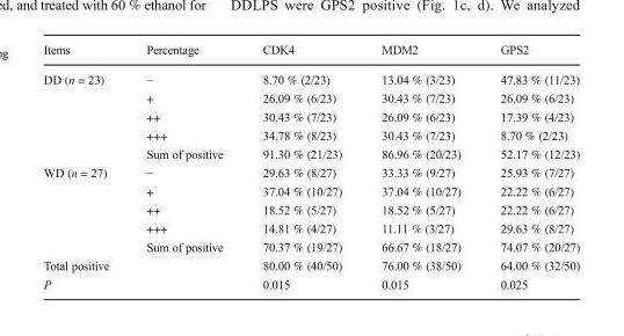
<table><thead><tr><td>Items</td><td>Percentage</td><td>CDK4</td><td>MDM2</td><td>GPS2</td></tr></thead><tbody><tr><td rowspan="5">DD (n = 23)</td><td>−</td><td>8.70 % (2/23)</td><td>13.04 % (3/23)</td><td>47.83 % (11/23)</td></tr><tr><td>+</td><td>26.09 % (6/23)</td><td>30.43 % (7/23)</td><td>26.09 % (6/23)</td></tr><tr><td>++</td><td>30.43 % (7/23)</td><td>26.09 % (6/23)</td><td>17.39 % (4/23)</td></tr><tr><td>+++</td><td>34.78 % (8/23)</td><td>30.43 % (7/23)</td><td>8.70 % (2/23)</td></tr><tr><td>Sum of positive</td><td>91.30 % (21/23)</td><td>86.96 % (20/23)</td><td>52.17 % (12/23)</td></tr><tr><td rowspan="5">WD (n = 27)</td><td>−</td><td>29.63 % (8/27)</td><td>33.33 % (9/27)</td><td>25.93 % (7/27)</td></tr><tr><td>+</td><td>37.04 % (10/27)</td><td>37.04 % (10/27)</td><td>22.22 % (6/27)</td></tr><tr><td>++</td><td>18.52 % (5/27)</td><td>18.52 % (5/27)</td><td>22.22 % (6/27)</td></tr><tr><td>+++</td><td>14.81 % (4/27)</td><td>11.11 % (3/27)</td><td>29.63 % (8/27)</td></tr><tr><td>Sum of positive</td><td>70.37 % (19/27)</td><td>66.67 % (18/27)</td><td>74.07 % (20/27)</td></tr><tr><td colspan="2">Total positive</td><td>80.00 % (40/50)</td><td>76.00 % (38/50)</td><td>64.00 % (32/50)</td></tr><tr><td colspan="2">P</td><td>0.015</td><td>0.015</td><td>0.025</td></tr></tbody></table>